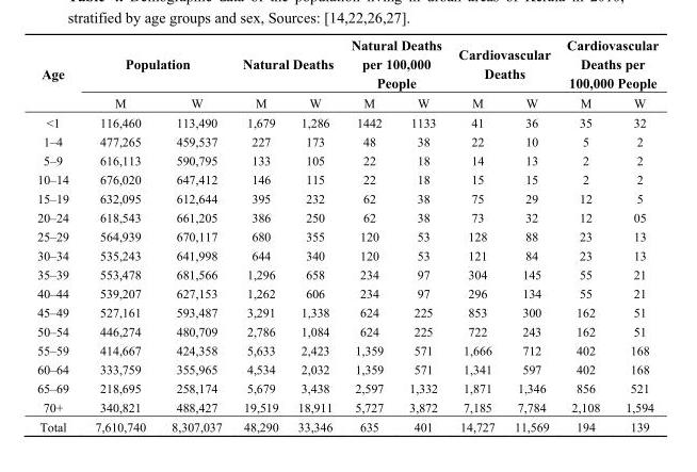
<table><tbody><tr><td rowspan="2">Age</td><td colspan="2">Population</td><td colspan="2">Natural Deaths</td><td colspan="2">Natural Deaths per 100,000 People</td><td colspan="2">Cardiovascular Deaths</td><td colspan="2">Cardiovascular Deaths per 100,000 People</td></tr><tr><td>M</td><td>W</td><td>M</td><td>W</td><td>M</td><td>W</td><td>M</td><td>W</td><td>M</td><td>W</td></tr><tr><td>&lt;1</td><td>116,460</td><td>113,490</td><td>1,679</td><td>1,286</td><td>1442</td><td>1133</td><td>41</td><td>36</td><td>35</td><td>32</td></tr><tr><td>1–4</td><td>477,265</td><td>459,537</td><td>227</td><td>173</td><td>48</td><td>38</td><td>22</td><td>10</td><td>5</td><td>2</td></tr><tr><td>5–9</td><td>616,113</td><td>590,795</td><td>133</td><td>105</td><td>22</td><td>18</td><td>14</td><td>13</td><td>2</td><td>2</td></tr><tr><td>10–14</td><td>676,020</td><td>647,412</td><td>146</td><td>115</td><td>22</td><td>18</td><td>15</td><td>15</td><td>2</td><td>2</td></tr><tr><td>15–19</td><td>632,095</td><td>612,644</td><td>395</td><td>232</td><td>62</td><td>38</td><td>75</td><td>29</td><td>12</td><td>5</td></tr><tr><td>20–24</td><td>618,543</td><td>661,205</td><td>386</td><td>250</td><td>62</td><td>38</td><td>73</td><td>32</td><td>12</td><td>05</td></tr><tr><td>25–29</td><td>564,939</td><td>670,117</td><td>680</td><td>355</td><td>120</td><td>53</td><td>128</td><td>88</td><td>23</td><td>13</td></tr><tr><td>30–34</td><td>535,243</td><td>641,998</td><td>644</td><td>340</td><td>120</td><td>53</td><td>121</td><td>84</td><td>23</td><td>13</td></tr><tr><td>35–39</td><td>553,478</td><td>681,566</td><td>1,296</td><td>658</td><td>234</td><td>97</td><td>304</td><td>145</td><td>55</td><td>21</td></tr><tr><td>40–44</td><td>539,207</td><td>627,153</td><td>1,262</td><td>606</td><td>234</td><td>97</td><td>296</td><td>134</td><td>55</td><td>21</td></tr><tr><td>45–49</td><td>527,161</td><td>593,487</td><td>3,291</td><td>1,338</td><td>624</td><td>225</td><td>853</td><td>300</td><td>162</td><td>51</td></tr><tr><td>50–54</td><td>446,274</td><td>480,709</td><td>2,786</td><td>1,084</td><td>624</td><td>225</td><td>722</td><td>243</td><td>162</td><td>51</td></tr><tr><td>55–59</td><td>414,667</td><td>424,358</td><td>5,633</td><td>2,423</td><td>1,359</td><td>571</td><td>1,666</td><td>712</td><td>402</td><td>168</td></tr><tr><td>60–64</td><td>333,759</td><td>355,965</td><td>4,534</td><td>2,032</td><td>1,359</td><td>571</td><td>1,341</td><td>597</td><td>402</td><td>168</td></tr><tr><td>65–69</td><td>218,695</td><td>258,174</td><td>5,679</td><td>3,438</td><td>2,597</td><td>1,332</td><td>1,871</td><td>1,346</td><td>856</td><td>521</td></tr><tr><td>70+</td><td>340,821</td><td>488,427</td><td>19,519</td><td>18,911</td><td>5,727</td><td>3,872</td><td>7,185</td><td>7,784</td><td>2,108</td><td>1,594</td></tr><tr><td>Total</td><td>7,610,740</td><td>8,307,037</td><td>48,290</td><td>33,346</td><td>635</td><td>401</td><td>14,727</td><td>11,569</td><td>194</td><td>139</td></tr></tbody></table>